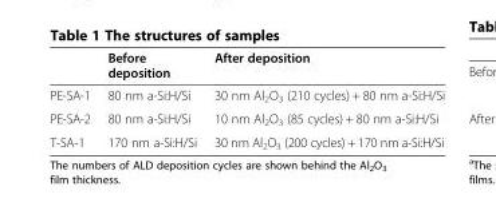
<table><thead><tr><td></td><td>Before deposition</td><td>After deposition</td></tr></thead><tbody><tr><td>PE-SA-1</td><td>80 nm a-Si:H/Si</td><td>30 nm Al<sub>2</sub>O<sub>3</sub> (210 cycles) + 80 nm a-Si:H/Si</td></tr><tr><td>PE-SA-2</td><td>80 nm a-Si:H/Si</td><td>10 nm Al<sub>2</sub>O<sub>3</sub> (85 cycles) + 80 nm a-Si:H/Si</td></tr><tr><td>T-SA-1</td><td>170 nm a-Si:H/Si</td><td>30 nm Al<sub>2</sub>O<sub>3</sub> (200 cycles) + 170 nm a-Si:H/Si</td></tr></tbody></table>